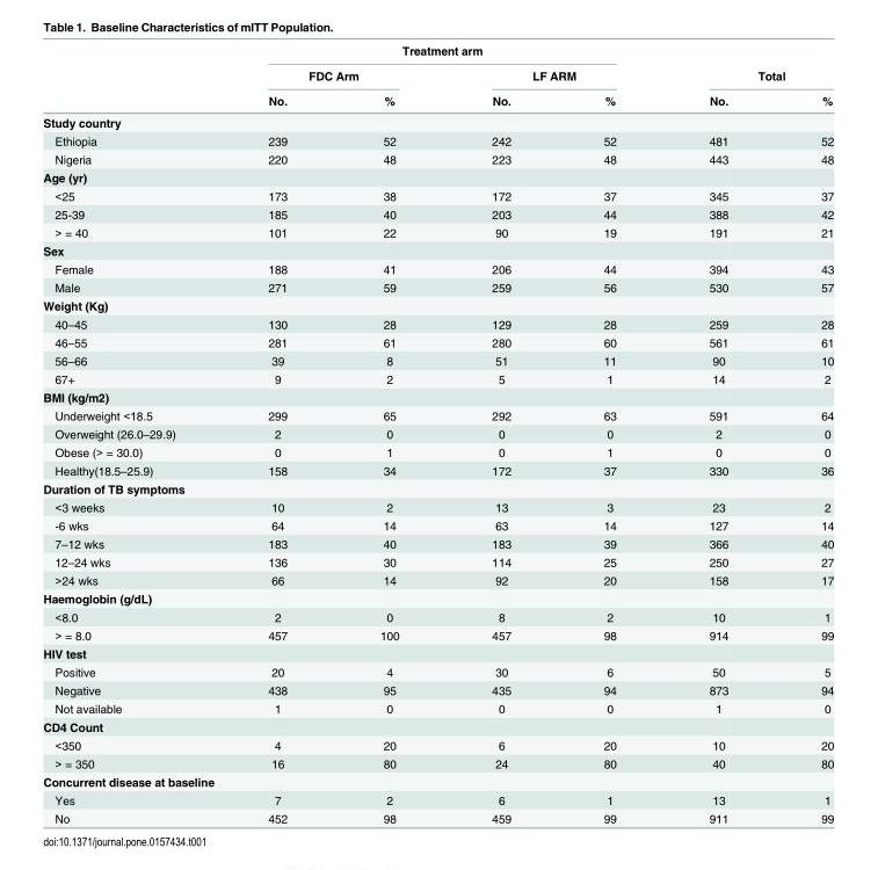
<table><thead><tr><td rowspan="3"></td><td colspan="4">Treatment arm</td><td></td><td></td></tr><tr><td colspan="2">FDC Arm</td><td colspan="2">LF ARM</td><td colspan="2">Total</td></tr><tr><td>No.</td><td>%</td><td>No.</td><td>%</td><td>No.</td><td>%</td></tr></thead><tbody><tr><td colspan="7">Study country</td></tr><tr><td>Ethiopia</td><td>239</td><td>52</td><td>242</td><td>52</td><td>481</td><td>52</td></tr><tr><td>Nigeria</td><td>220</td><td>48</td><td>223</td><td>48</td><td>443</td><td>48</td></tr><tr><td colspan="7">Age (yr)</td></tr><tr><td>&lt;25</td><td>173</td><td>38</td><td>172</td><td>37</td><td>345</td><td>37</td></tr><tr><td>25-39</td><td>185</td><td>40</td><td>203</td><td>44</td><td>388</td><td>42</td></tr><tr><td>&gt; = 40</td><td>101</td><td>22</td><td>90</td><td>19</td><td>191</td><td>21</td></tr><tr><td colspan="7">Sex</td></tr><tr><td>Female</td><td>188</td><td>41</td><td>206</td><td>44</td><td>394</td><td>43</td></tr><tr><td>Male</td><td>271</td><td>59</td><td>259</td><td>56</td><td>530</td><td>57</td></tr><tr><td colspan="7">Weight (Kg)</td></tr><tr><td>40–45</td><td>130</td><td>28</td><td>129</td><td>28</td><td>259</td><td>28</td></tr><tr><td>46–55</td><td>281</td><td>61</td><td>280</td><td>60</td><td>561</td><td>61</td></tr><tr><td>56–66</td><td>39</td><td>8</td><td>51</td><td>11</td><td>90</td><td>10</td></tr><tr><td>67+</td><td>9</td><td>2</td><td>5</td><td>1</td><td>14</td><td>2</td></tr><tr><td colspan="7">BMI (kg/m2)</td></tr><tr><td>Underweight &lt;18.5</td><td>299</td><td>65</td><td>292</td><td>63</td><td>591</td><td>64</td></tr><tr><td>Overweight (26.0–29.9)</td><td>2</td><td>0</td><td>0</td><td>0</td><td>2</td><td>0</td></tr><tr><td>Obese (&gt; = 30.0)</td><td>0</td><td>1</td><td>0</td><td>1</td><td>0</td><td>0</td></tr><tr><td>Healthy(18.5–25.9)</td><td>158</td><td>34</td><td>172</td><td>37</td><td>330</td><td>36</td></tr><tr><td colspan="7">Duration of TB symptoms</td></tr><tr><td>&lt;3 weeks</td><td>10</td><td>2</td><td>13</td><td>3</td><td>23</td><td>2</td></tr><tr><td>-6 wks</td><td>64</td><td>14</td><td>63</td><td>14</td><td>127</td><td>14</td></tr><tr><td>7–12 wks</td><td>183</td><td>40</td><td>183</td><td>39</td><td>366</td><td>40</td></tr><tr><td>12–24 wks</td><td>136</td><td>30</td><td>114</td><td>25</td><td>250</td><td>27</td></tr><tr><td>&gt;24 wks</td><td>66</td><td>14</td><td>92</td><td>20</td><td>158</td><td>17</td></tr><tr><td colspan="7">Haemoglobin (g/dL)</td></tr><tr><td>&lt;8.0</td><td>2</td><td>0</td><td>8</td><td>2</td><td>10</td><td>1</td></tr><tr><td>&gt; = 8.0</td><td>457</td><td>100</td><td>457</td><td>98</td><td>914</td><td>99</td></tr><tr><td colspan="7">HIV test</td></tr><tr><td>Positive</td><td>20</td><td>4</td><td>30</td><td>6</td><td>50</td><td>5</td></tr><tr><td>Negative</td><td>438</td><td>95</td><td>435</td><td>94</td><td>873</td><td>94</td></tr><tr><td>Not available</td><td>1</td><td>0</td><td>0</td><td>0</td><td>1</td><td>0</td></tr><tr><td colspan="7">CD4 Count</td></tr><tr><td>&lt;350</td><td>4</td><td>20</td><td>6</td><td>20</td><td>10</td><td>20</td></tr><tr><td>&gt; = 350</td><td>16</td><td>80</td><td>24</td><td>80</td><td>40</td><td>80</td></tr><tr><td colspan="7">Concurrent disease at baseline</td></tr><tr><td>Yes</td><td>7</td><td>2</td><td>6</td><td>1</td><td>13</td><td>1</td></tr><tr><td>No</td><td>452</td><td>98</td><td>459</td><td>99</td><td>911</td><td>99</td></tr></tbody></table>